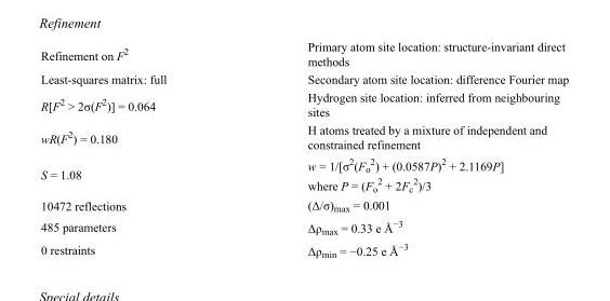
<table><tbody><tr><td>Refinement on F<sup>2</sup></td><td>Primary atom site location: structure-invariant direct methods</td></tr><tr><td>Least-squares matrix: full</td><td>Secondary atom site location: difference Fourier map</td></tr><tr><td>R[F<sup>2</sup> &gt; 2σ(F<sup>2</sup>)] = 0.064</td><td>Hydrogen site location: inferred from neighbouring sites</td></tr><tr><td>wR(F<sup>2</sup>) = 0.180</td><td>H atoms treated by a mixture of independent and constrained refinement</td></tr><tr><td>S = 1.08</td><td>w = 1/[σ<sup>2</sup>(F<sub>o</sub> <sup>2</sup>) + (0.0587P)<sup>2</sup> + 2.1169P] where P = (F<sub>o</sub> <sup>2</sup> + 2F<sub>c</sub> <sup>2</sup>)/3</td></tr><tr><td>10472 reflections</td><td>(Δ/σ)<sub>max</sub> = 0.001</td></tr><tr><td>485 parameters</td><td>Δρ<sub>max</sub> = 0.33 e Å<sup>−3</sup></td></tr><tr><td>0 restraints</td><td>Δρ<sub>min</sub> = −0.25 e Å<sup>−3</sup></td></tr></tbody></table>